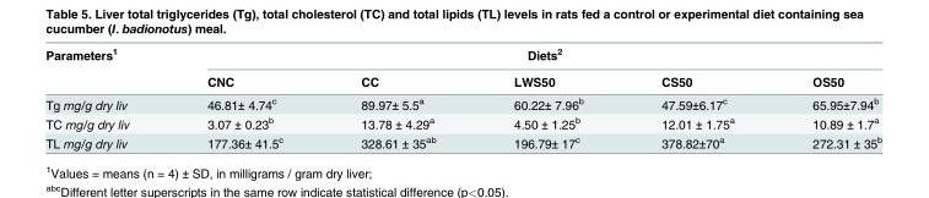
<table><thead><tr><td rowspan="2">Parameters<sup>1</sup></td><td colspan="5">Diets<sup>2</sup></td></tr><tr><td>CNC</td><td>CC</td><td>LWS50</td><td>CS50</td><td>OS50</td></tr></thead><tbody><tr><td>Tg mg/g dry liv</td><td>46.81± 4.74<sup>c</sup></td><td>89.97± 5.5<sup>a</sup></td><td>60.22± 7.96<sup>b</sup></td><td>47.59±6.17<sup>c</sup></td><td>65.95±7.94<sup>b</sup></td></tr><tr><td>TC mg/g dry liv</td><td>3.07 ± 0.23<sup>b</sup></td><td>13.78 ± 4.29<sup>a</sup></td><td>4.50 ± 1.25<sup>b</sup></td><td>12.01 ± 1.75<sup>a</sup></td><td>10.89 ± 1.7<sup>a</sup></td></tr><tr><td>TL mg/g dry liv</td><td>177.36± 41.5<sup>c</sup></td><td>328.61 ± 35<sup>ab</sup></td><td>196.79± 17<sup>c</sup></td><td>378.82±70<sup>a</sup></td><td>272.31 ± 35<sup>b</sup></td></tr></tbody></table>